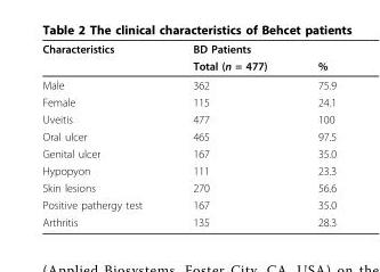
<table><thead><tr><td rowspan="2">Characteristics</td><td colspan="2">BD Patients</td></tr><tr><td>Total (n = 477)</td><td>%</td></tr></thead><tbody><tr><td>Male</td><td>362</td><td>75.9</td></tr><tr><td>Female</td><td>115</td><td>24.1</td></tr><tr><td>Uveitis</td><td>477</td><td>100</td></tr><tr><td>Oral ulcer</td><td>465</td><td>97.5</td></tr><tr><td>Genital ulcer</td><td>167</td><td>35.0</td></tr><tr><td>Hypopyon</td><td>111</td><td>23.3</td></tr><tr><td>Skin lesions</td><td>270</td><td>56.6</td></tr><tr><td>Positive pathergy test</td><td>167</td><td>35.0</td></tr><tr><td>Arthritis</td><td>135</td><td>28.3</td></tr></tbody></table>